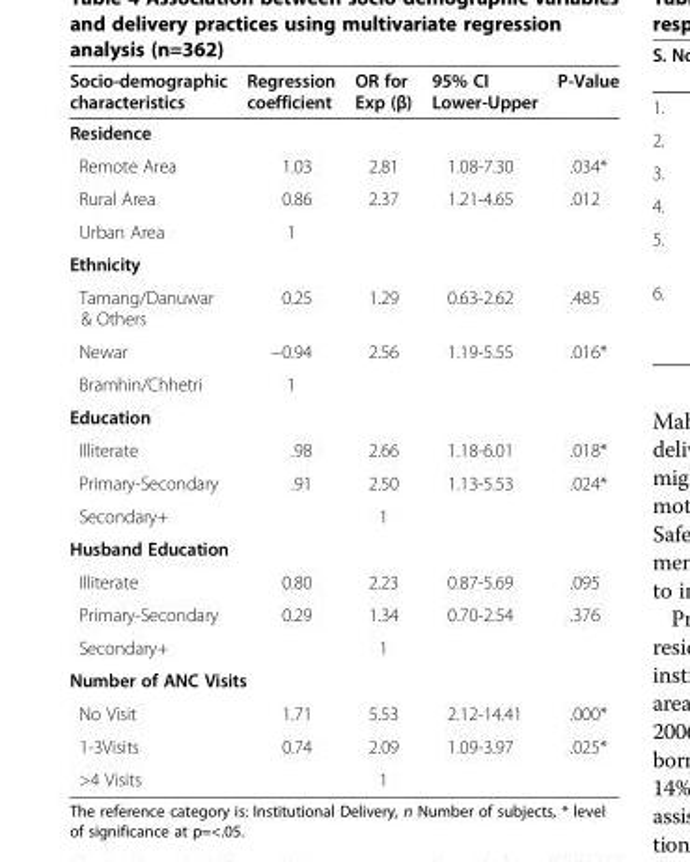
<table><thead><tr><td>Socio-demographic characteristics</td><td>Regression coefficient</td><td>OR for Exp (β)</td><td>95% CI Lower-Upper</td><td>P-Value</td></tr></thead><tbody><tr><td colspan="5">Residence</td></tr><tr><td>Remote Area</td><td>1.03</td><td>2.81</td><td>1.08-7.30</td><td>.034*</td></tr><tr><td>Rural Area</td><td>0.86</td><td>2.37</td><td>1.21-4.65</td><td>.012</td></tr><tr><td>Urban Area</td><td>1</td><td></td><td></td><td></td></tr><tr><td colspan="5">Ethnicity</td></tr><tr><td>Tamang/Danuwar &amp; Others</td><td>0.25</td><td>1.29</td><td>0.63-2.62</td><td>.485</td></tr><tr><td>Newar</td><td>−0.94</td><td>2.56</td><td>1.19-5.55</td><td>.016*</td></tr><tr><td>Bramhin/Chhetri</td><td>1</td><td></td><td></td><td></td></tr><tr><td colspan="5">Education</td></tr><tr><td>Illiterate</td><td>.98</td><td>2.66</td><td>1.18-6.01</td><td>.018*</td></tr><tr><td>Primary-Secondary</td><td>.91</td><td>2.50</td><td>1.13-5.53</td><td>.024*</td></tr><tr><td>Secondary+</td><td></td><td>1</td><td></td><td></td></tr><tr><td colspan="5">Husband Education</td></tr><tr><td>Illiterate</td><td>0.80</td><td>2.23</td><td>0.87-5.69</td><td>.095</td></tr><tr><td>Primary-Secondary</td><td>0.29</td><td>1.34</td><td>0.70-2.54</td><td>.376</td></tr><tr><td>Secondary+</td><td></td><td>1</td><td></td><td></td></tr><tr><td colspan="5">Number of ANC Visits</td></tr><tr><td>No Visit</td><td>1.71</td><td>5.53</td><td>2.12-14.41</td><td>.000*</td></tr><tr><td>1-3Visits</td><td>0.74</td><td>2.09</td><td>1.09-3.97</td><td>.025*</td></tr><tr><td>&gt;4 Visits</td><td></td><td>1</td><td></td><td></td></tr></tbody></table>